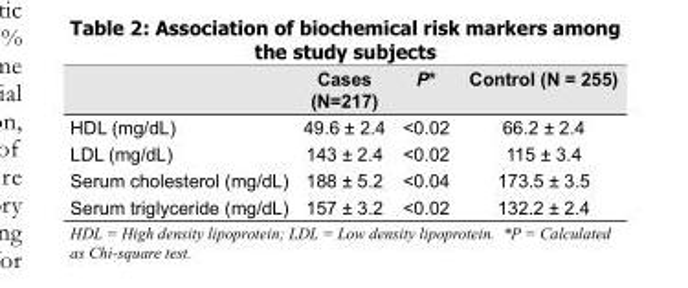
<table><thead><tr><td></td><td>Cases (N=217)</td><td>P*</td><td>Control (N = 255)</td></tr></thead><tbody><tr><td>HDL (mg/dL)</td><td>49.6 ± 2.4</td><td>&lt;0.02</td><td>66.2 ± 2.4</td></tr><tr><td>LDL (mg/dL)</td><td>143 ± 2.4</td><td>&lt;0.02</td><td>115 ± 3.4</td></tr><tr><td>Serum cholesterol (mg/dL)</td><td>188 ± 5.2</td><td>&lt;0.04</td><td>173.5 ± 3.5</td></tr><tr><td>Serum triglyceride (mg/dL)</td><td>157 ± 3.2</td><td>&lt;0.02</td><td>132.2 ± 2.4</td></tr></tbody></table>